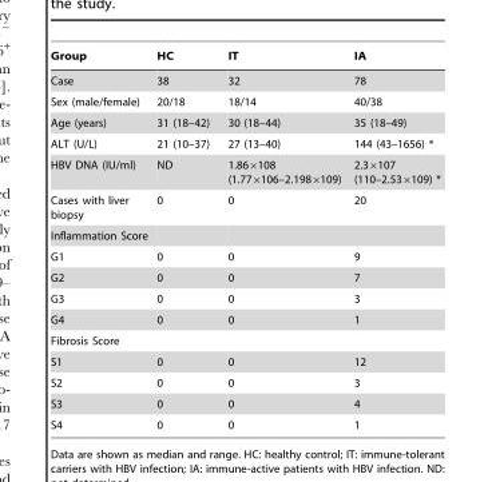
<table><thead><tr><td>Group</td><td>HC</td><td>IT</td><td>IA</td></tr></thead><tbody><tr><td>Case</td><td>38</td><td>32</td><td>78</td></tr><tr><td>Sex (male/female)</td><td>20/18</td><td>18/14</td><td>40/38</td></tr><tr><td>Age (years)</td><td>31 (18–42)</td><td>30 (18–44)</td><td>35 (18–49)</td></tr><tr><td>ALT (U/L)</td><td>21 (10–37)</td><td>27 (13–40)</td><td>144 (43–1656) *</td></tr><tr><td>HBV DNA (IU/ml)</td><td>ND</td><td>1.86×108 (1.77×106–2.198×109)</td><td>2.3×107 (110–2.53×109) *</td></tr><tr><td>Cases with liver biopsy</td><td>0</td><td>0</td><td>20</td></tr><tr><td colspan="4">Inflammation Score</td></tr><tr><td>G1</td><td>0</td><td>0</td><td>9</td></tr><tr><td>G2</td><td>0</td><td>0</td><td>7</td></tr><tr><td>G3</td><td>0</td><td>0</td><td>3</td></tr><tr><td>G4</td><td>0</td><td>0</td><td>1</td></tr><tr><td colspan="4">Fibrosis Score</td></tr><tr><td>S1</td><td>0</td><td>0</td><td>12</td></tr><tr><td>S2</td><td>0</td><td>0</td><td>3</td></tr><tr><td>S3</td><td>0</td><td>0</td><td>4</td></tr><tr><td>S4</td><td>0</td><td>0</td><td>1</td></tr></tbody></table>